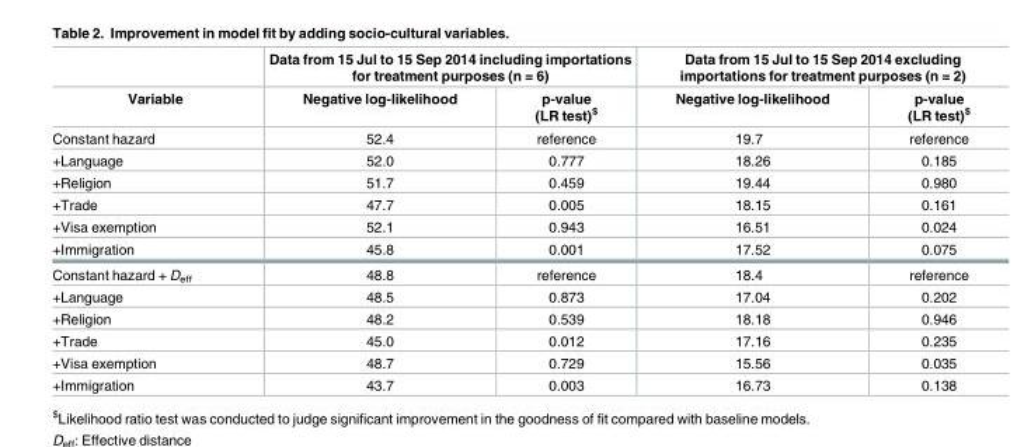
<table><thead><tr><td rowspan="2">Variable</td><td colspan="2">Data from 15 Jul to 15 Sep 2014 including importations for treatment purposes (n = 6)</td><td colspan="2">Data from 15 Jul to 15 Sep 2014 excluding importations for treatment purposes (n = 2)</td></tr><tr><td>Negative log-likelihood</td><td>p-value (LR test)<sup>$</sup></td><td>Negative log-likelihood</td><td>p-value (LR test)<sup>$</sup></td></tr></thead><tbody><tr><td>Constant hazard</td><td>52.4</td><td>reference</td><td>19.7</td><td>reference</td></tr><tr><td>+Language</td><td>52.0</td><td>0.777</td><td>18.26</td><td>0.185</td></tr><tr><td>+Religion</td><td>51.7</td><td>0.459</td><td>19.44</td><td>0.980</td></tr><tr><td>+Trade</td><td>47.7</td><td>0.005</td><td>18.15</td><td>0.161</td></tr><tr><td>+Visa exemption</td><td>52.1</td><td>0.943</td><td>16.51</td><td>0.024</td></tr><tr><td>+Immigration</td><td>45.8</td><td>0.001</td><td>17.52</td><td>0.075</td></tr><tr><td>Constant hazard + D<sub>eff</sub></td><td>48.8</td><td>reference</td><td>18.4</td><td>reference</td></tr><tr><td>+Language</td><td>48.5</td><td>0.873</td><td>17.04</td><td>0.202</td></tr><tr><td>+Religion</td><td>48.2</td><td>0.539</td><td>18.18</td><td>0.946</td></tr><tr><td>+Trade</td><td>45.0</td><td>0.012</td><td>17.16</td><td>0.235</td></tr><tr><td>+Visa exemption</td><td>48.7</td><td>0.729</td><td>15.56</td><td>0.035</td></tr><tr><td>+Immigration</td><td>43.7</td><td>0.003</td><td>16.73</td><td>0.138</td></tr></tbody></table>